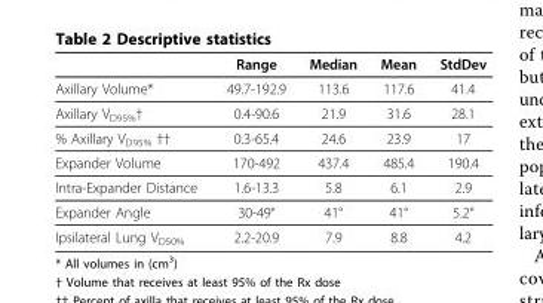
<table><thead><tr><td></td><td>Range</td><td>Median</td><td>Mean</td><td>StdDev</td></tr></thead><tbody><tr><td>Axillary Volume*</td><td>49.7-192.9</td><td>113.6</td><td>117.6</td><td>41.4</td></tr><tr><td>Axillary V<sub>D95%</sub>†</td><td>0.4-90.6</td><td>21.9</td><td>31.6</td><td>28.1</td></tr><tr><td>% Axillary V<sub>D95%</sub> ††</td><td>0.3-65.4</td><td>24.6</td><td>23.9</td><td>17</td></tr><tr><td>Expander Volume</td><td>170-492</td><td>437.4</td><td>485.4</td><td>190.4</td></tr><tr><td>Intra-Expander Distance</td><td>1.6-13.3</td><td>5.8</td><td>6.1</td><td>2.9</td></tr><tr><td>Expander Angle</td><td>30-49°</td><td>41°</td><td>41°</td><td>5.2°</td></tr><tr><td>Ipsilateral Lung V<sub>D50%</sub></td><td>2.2-20.9</td><td>7.9</td><td>8.8</td><td>4.2</td></tr></tbody></table>